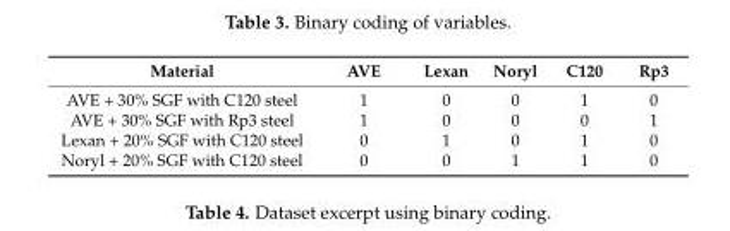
<table><thead><tr><td>Material</td><td>AVE</td><td>Lexan</td><td>Noryl</td><td>C120</td><td>Rp3</td></tr></thead><tbody><tr><td>AVE + 30% SGF with C120 steel</td><td>1</td><td>0</td><td>0</td><td>1</td><td>0</td></tr><tr><td>AVE + 30% SGF with Rp3 steel</td><td>1</td><td>0</td><td>0</td><td>0</td><td>1</td></tr><tr><td>Lexan + 20% SGF with C120 steel</td><td>0</td><td>1</td><td>0</td><td>1</td><td>0</td></tr><tr><td>Noryl + 20% SGF with C120 steel</td><td>0</td><td>0</td><td>1</td><td>1</td><td>0</td></tr></tbody></table>